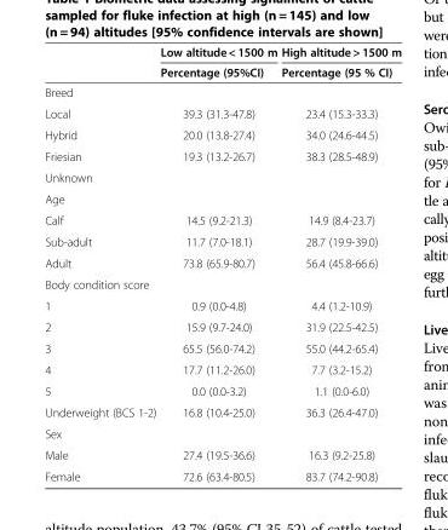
<table><thead><tr><td rowspan="2"></td><td rowspan="2">Low altitude &lt; 1500 m Percentage (95%CI)</td><td rowspan="2">High altitude &gt; 1500 m Percentage (95 % CI)</td></tr><tr></tr></thead><tbody><tr><td colspan="3">Breed</td></tr><tr><td>Local</td><td>39.3 (31.3-47.8)</td><td>23.4 (15.3-33.3)</td></tr><tr><td>Hybrid</td><td>20.0 (13.8-27.4)</td><td>34.0 (24.6-44.5)</td></tr><tr><td>Friesian</td><td>19.3 (13.2-26.7)</td><td>38.3 (28.5-48.9)</td></tr><tr><td colspan="3">Unknown</td></tr><tr><td colspan="3">Age</td></tr><tr><td>Calf</td><td>14.5 (9.2-21.3)</td><td>14.9 (8.4-23.7)</td></tr><tr><td>Sub-adult</td><td>11.7 (7.0-18.1)</td><td>28.7 (19.9-39.0)</td></tr><tr><td>Adult</td><td>73.8 (65.9-80.7)</td><td>56.4 (45.8-66.6)</td></tr><tr><td colspan="3">Body condition score</td></tr><tr><td>1</td><td>0.9 (0.0-4.8)</td><td>4.4 (1.2-10.9)</td></tr><tr><td>2</td><td>15.9 (9.7-24.0)</td><td>31.9 (22.5-42.5)</td></tr><tr><td>3</td><td>65.5 (56.0-74.2)</td><td>55.0 (44.2-65.4)</td></tr><tr><td>4</td><td>17.7 (11.2-26.0)</td><td>7.7 (3.2-15.2)</td></tr><tr><td>5</td><td>0.0 (0.0-3.2)</td><td>1.1 (0.0-6.0)</td></tr><tr><td>Underweight (BCS 1-2)</td><td>16.8 (10.4-25.0)</td><td>36.3 (26.4-47.0)</td></tr><tr><td colspan="3">Sex</td></tr><tr><td>Male</td><td>27.4 (19.5-36.6)</td><td>16.3 (9.2-25.8)</td></tr><tr><td>Female</td><td>72.6 (63.4-80.5)</td><td>83.7 (74.2-90.8)</td></tr></tbody></table>